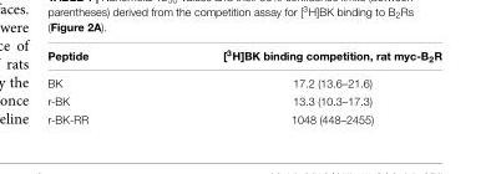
<table><thead><tr><td>Peptide</td><td>[<sup>3</sup>H]BK binding competition, rat myc-B<sub>2</sub>R</td></tr></thead><tbody><tr><td>BK</td><td>17.2 (13.6–21.6)</td></tr><tr><td>r-BK</td><td>13.3 (10.3–17.3)</td></tr><tr><td>r-BK-RR</td><td>1048 (448–2455)</td></tr></tbody></table>